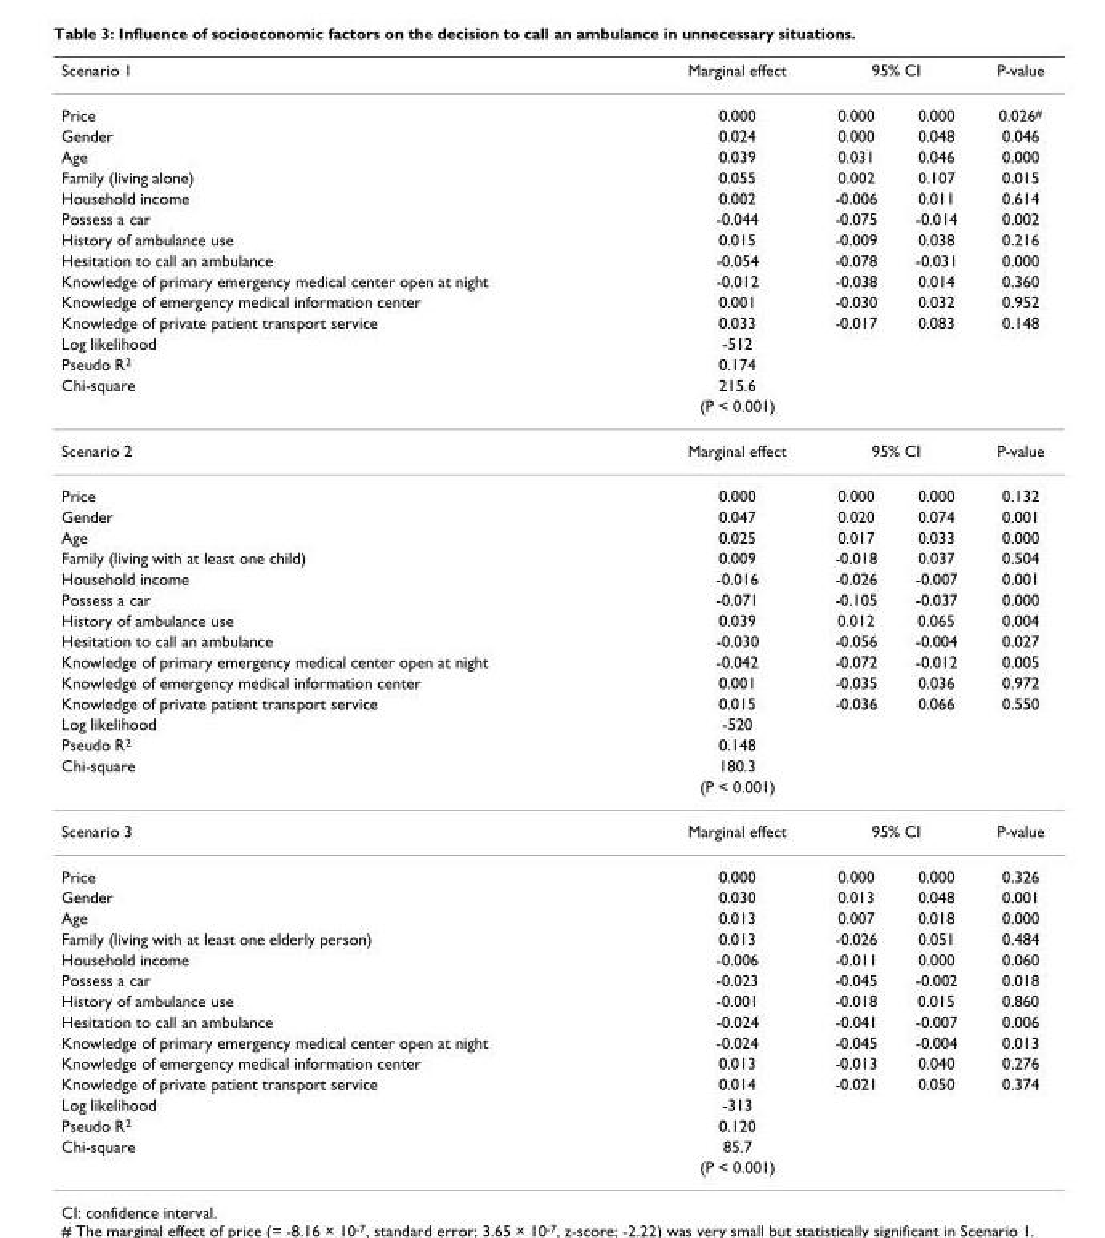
<table><thead><tr><td rowspan="2">Scenario 1 Price</td><td rowspan="2">Marginal effect 0.000</td><td colspan="2">95% CI</td><td rowspan="2">P-value 0.026#</td></tr><tr><td>0.000</td><td>0.000</td></tr></thead><tbody><tr><td>Gender</td><td>0.024</td><td>0.000</td><td>0.048</td><td>0.046</td></tr><tr><td>Age</td><td>0.039</td><td>0.031</td><td>0.046</td><td>0.000</td></tr><tr><td>Family (living alone)</td><td>0.055</td><td>0.002</td><td>0.107</td><td>0.015</td></tr><tr><td>Household income</td><td>0.002</td><td>-0.006</td><td>0.011</td><td>0.614</td></tr><tr><td>Possess a car</td><td>-0.044</td><td>-0.075</td><td>-0.014</td><td>0.002</td></tr><tr><td>History of ambulance use</td><td>0.015</td><td>-0.009</td><td>0.038</td><td>0.216</td></tr><tr><td>Hesitation to call an ambulance</td><td>-0.054</td><td>-0.078</td><td>-0.031</td><td>0.000</td></tr><tr><td>Knowledge of primary emergency medical center open at night</td><td>-0.012</td><td>-0.038</td><td>0.014</td><td>0.360</td></tr><tr><td>Knowledge of emergency medical information center</td><td>0.001</td><td>-0.030</td><td>0.032</td><td>0.952</td></tr><tr><td>Knowledge of private patient transport service</td><td>0.033</td><td>-0.017</td><td>0.083</td><td>0.148</td></tr><tr><td>Log likelihood</td><td>-512</td><td></td><td></td><td></td></tr><tr><td>Pseudo R2</td><td>0.174</td><td></td><td></td><td></td></tr><tr><td rowspan="2">Chi-square</td><td>215.6</td><td></td><td></td><td></td></tr><tr><td>(P &lt; 0.001)</td><td></td><td></td><td></td></tr><tr><td>Scenario 2</td><td>Marginal effect</td><td colspan="2">95% CI</td><td>P-value</td></tr><tr><td>Price</td><td>0.000</td><td>0.000</td><td>0.000</td><td>0.132</td></tr><tr><td>Gender</td><td>0.047</td><td>0.020</td><td>0.074</td><td>0.001</td></tr><tr><td>Age</td><td>0.025</td><td>0.017</td><td>0.033</td><td>0.000</td></tr><tr><td>Family (living with at least one child)</td><td>0.009</td><td>-0.018</td><td>0.037</td><td>0.504</td></tr><tr><td>Household income</td><td>-0.016</td><td>-0.026</td><td>-0.007</td><td>0.001</td></tr><tr><td>Possess a car</td><td>-0.071</td><td>-0.105</td><td>-0.037</td><td>0.000</td></tr><tr><td>History of ambulance use</td><td>0.039</td><td>0.012</td><td>0.065</td><td>0.004</td></tr><tr><td>Hesitation to call an ambulance</td><td>-0.030</td><td>-0.056</td><td>-0.004</td><td>0.027</td></tr><tr><td>Knowledge of primary emergency medical center open at night</td><td>-0.042</td><td>-0.072</td><td>-0.012</td><td>0.005</td></tr><tr><td>Knowledge of emergency medical information center</td><td>0.001</td><td>-0.035</td><td>0.036</td><td>0.972</td></tr><tr><td>Knowledge of private patient transport service</td><td>0.015</td><td>-0.036</td><td>0.066</td><td>0.550</td></tr><tr><td>Log likelihood</td><td>-520</td><td></td><td></td><td></td></tr><tr><td>Pseudo R2</td><td>0.148</td><td></td><td></td><td></td></tr><tr><td rowspan="2">Chi-square</td><td>180.3</td><td></td><td></td><td></td></tr><tr><td>(P &lt; 0.001)</td><td></td><td></td><td></td></tr><tr><td>Scenario 3</td><td>Marginal effect</td><td colspan="2">95% CI</td><td>P-value</td></tr><tr><td>Price</td><td>0.000</td><td>0.000</td><td>0.000</td><td>0.326</td></tr><tr><td>Gender</td><td>0.030</td><td>0.013</td><td>0.048</td><td>0.001</td></tr><tr><td>Age</td><td>0.013</td><td>0.007</td><td>0.018</td><td>0.000</td></tr><tr><td>Family (living with at least one elderly person)</td><td>0.013</td><td>-0.026</td><td>0.051</td><td>0.484</td></tr><tr><td>Household income</td><td>-0.006</td><td>-0.011</td><td>0.000</td><td>0.060</td></tr><tr><td>Possess a car</td><td>-0.023</td><td>-0.045</td><td>-0.002</td><td>0.018</td></tr><tr><td>History of ambulance use</td><td>-0.001</td><td>-0.018</td><td>0.015</td><td>0.860</td></tr><tr><td>Hesitation to call an ambulance</td><td>-0.024</td><td>-0.041</td><td>-0.007</td><td>0.006</td></tr><tr><td>Knowledge of primary emergency medical center open at night</td><td>-0.024</td><td>-0.045</td><td>-0.004</td><td>0.013</td></tr><tr><td>Knowledge of emergency medical information center</td><td>0.013</td><td>-0.013</td><td>0.040</td><td>0.276</td></tr><tr><td>Knowledge of private patient transport service</td><td>0.014</td><td>-0.021</td><td>0.050</td><td>0.374</td></tr><tr><td>Log likelihood</td><td>-313</td><td></td><td></td><td></td></tr><tr><td>Pseudo R2</td><td>0.120</td><td></td><td></td><td></td></tr><tr><td rowspan="2">Chi-square</td><td>85.7</td><td></td><td></td><td></td></tr><tr><td>(P &lt; 0.001)</td><td></td><td></td><td></td></tr></tbody></table>